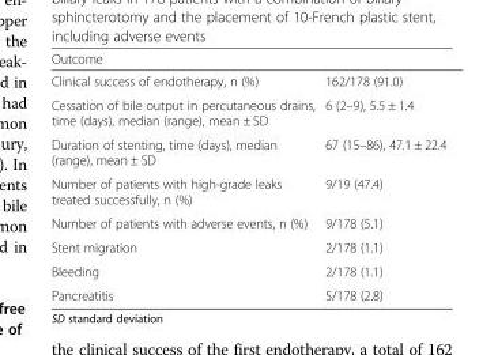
<table><thead><tr><td>Outcome</td><td></td></tr></thead><tbody><tr><td>Clinical success of endotherapy, n (%)</td><td>162/178 (91.0)</td></tr><tr><td>Cessation of bile output in percutaneous drains, time (days), median (range), mean ± SD</td><td>6 (2–9), 5.5 ± 1.4</td></tr><tr><td>Duration of stenting, time (days), median (range), mean ± SD</td><td>67 (15–86), 47.1 ± 22.4</td></tr><tr><td>Number of patients with high-grade leaks treated successfully, n (%)</td><td>9/19 (47.4)</td></tr><tr><td>Number of patients with adverse events, n (%)</td><td>9/178 (5.1)</td></tr><tr><td>Stent migration</td><td>2/178 (1.1)</td></tr><tr><td>Bleeding</td><td>2/178 (1.1)</td></tr><tr><td>Pancreatitis</td><td>5/178 (2.8)</td></tr></tbody></table>